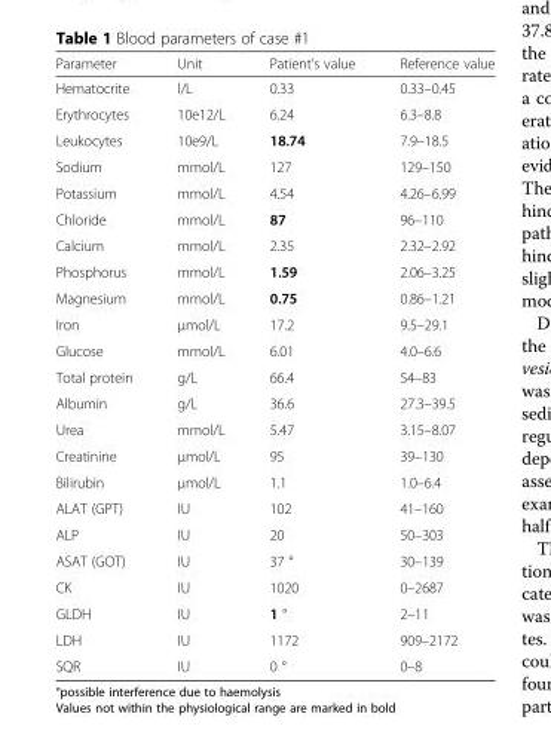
<table><thead><tr><td>Parameter</td><td>Unit</td><td>Patient’s value</td><td>Reference value</td></tr></thead><tbody><tr><td>Hematocrite</td><td>l/L</td><td>0.33</td><td>0.33–0.45</td></tr><tr><td>Erythrocytes</td><td>10e12/L</td><td>6.24</td><td>6.3–8.8</td></tr><tr><td>Leukocytes</td><td>10e9/L</td><td>18.74</td><td>7.9–18.5</td></tr><tr><td>Sodium</td><td>mmol/L</td><td>127</td><td>129–150</td></tr><tr><td>Potassium</td><td>mmol/L</td><td>4.54</td><td>4.26–6.99</td></tr><tr><td>Chloride</td><td>mmol/L</td><td>87</td><td>96–110</td></tr><tr><td>Calcium</td><td>mmol/L</td><td>2.35</td><td>2.32–2.92</td></tr><tr><td>Phosphorus</td><td>mmol/L</td><td>1.59</td><td>2.06–3.25</td></tr><tr><td>Magnesium</td><td>mmol/L</td><td>0.75</td><td>0.86–1.21</td></tr><tr><td>Iron</td><td>μmol/L</td><td>17.2</td><td>9.5–29.1</td></tr><tr><td>Glucose</td><td>mmol/L</td><td>6.01</td><td>4.0–6.6</td></tr><tr><td>Total protein</td><td>g/L</td><td>66.4</td><td>54–83</td></tr><tr><td>Albumin</td><td>g/L</td><td>36.6</td><td>27.3–39.5</td></tr><tr><td>Urea</td><td>mmol/L</td><td>5.47</td><td>3.15–8.07</td></tr><tr><td>Creatinine</td><td>μmol/L</td><td>95</td><td>39–130</td></tr><tr><td>Bilirubin</td><td>μmol/L</td><td>1.1</td><td>1.0–6.4</td></tr><tr><td>ALAT (GPT)</td><td>IU</td><td>102</td><td>41–160</td></tr><tr><td>ALP</td><td>IU</td><td>20</td><td>50–303</td></tr><tr><td>ASAT (GOT)</td><td>IU</td><td>37 °</td><td>30–139</td></tr><tr><td>CK</td><td>IU</td><td>1020</td><td>0–2687</td></tr><tr><td>GLDH</td><td>IU</td><td>1 °</td><td>2–11</td></tr><tr><td>LDH</td><td>IU</td><td>1172</td><td>909–2172</td></tr><tr><td>SQR</td><td>IU</td><td>0 °</td><td>0–8</td></tr></tbody></table>